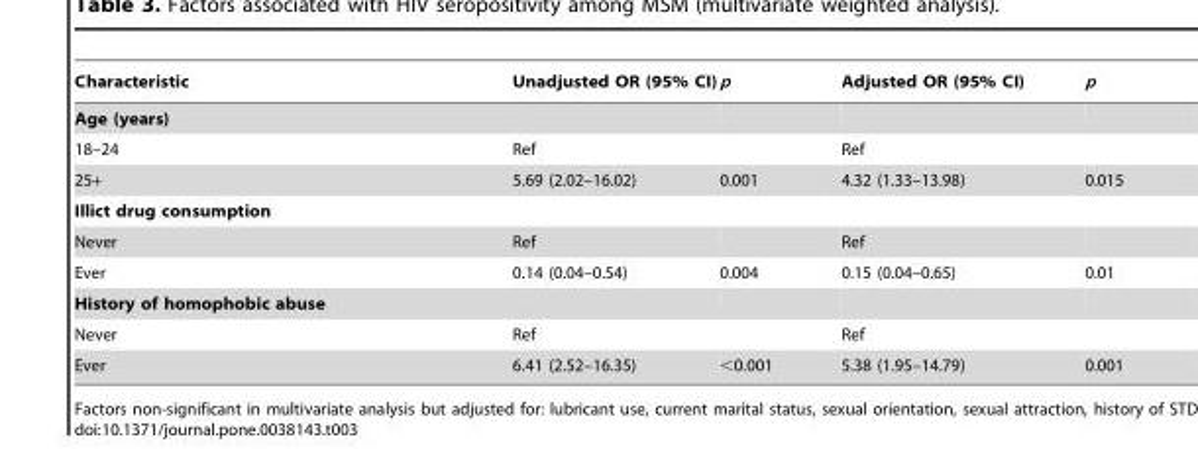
<table><thead><tr><td>Characteristic</td><td>Unadjusted OR (95% CI)</td><td>p</td><td>Adjusted OR (95% CI)</td><td>p</td></tr></thead><tbody><tr><td colspan="5">Age (years)</td></tr><tr><td>18–24</td><td>Ref</td><td></td><td>Ref</td><td></td></tr><tr><td>25+</td><td>5.69 (2.02–16.02)</td><td>0.001</td><td>4.32 (1.33–13.98)</td><td>0.015</td></tr><tr><td colspan="5">Illict drug consumption</td></tr><tr><td>Never</td><td>Ref</td><td></td><td>Ref</td><td></td></tr><tr><td>Ever</td><td>0.14 (0.04–0.54)</td><td>0.004</td><td>0.15 (0.04–0.65)</td><td>0.01</td></tr><tr><td colspan="5">History of homophobic abuse</td></tr><tr><td>Never</td><td>Ref</td><td></td><td>Ref</td><td></td></tr><tr><td>Ever</td><td>6.41 (2.52–16.35)</td><td>&lt;0.001</td><td>5.38 (1.95–14.79)</td><td>0.001</td></tr></tbody></table>